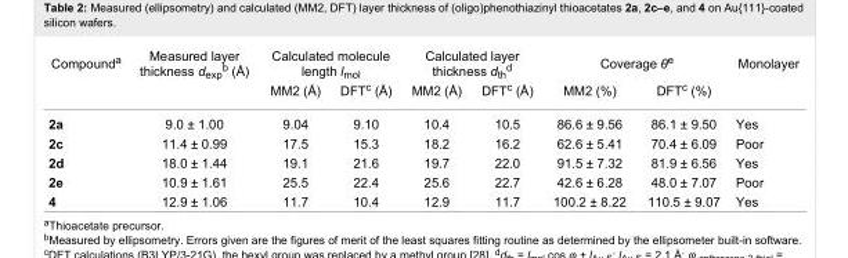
<table><tbody><tr><td rowspan="2">Compound<sup>a</sup></td><td>Measured layer thickness d<sub>exp</sub><sup>b</sup> (Å)</td><td colspan="2">Calculated molecule length l<sub>mol</sub></td><td colspan="2">Calculated layer thickness d<sub>th</sub><sup>d</sup></td><td colspan="2">Coverage θ<sup>e</sup></td><td>Monolayer</td></tr><tr><td></td><td>MM2 (Å)</td><td>DFT<sup>c</sup> (Å)</td><td>MM2 (Å)</td><td>DFT<sup>c</sup> (Å)</td><td>MM2 (%)</td><td>DFT<sup>c</sup> (%)</td><td></td></tr><tr><td>2a</td><td>9.0 ± 1.00</td><td>9.04</td><td>9.10</td><td>10.4</td><td>10.5</td><td>86.6 ± 9.56</td><td>86.1 ± 9.50</td><td>Yes</td></tr><tr><td>2c</td><td>11.4 ± 0.99</td><td>17.5</td><td>15.3</td><td>18.2</td><td>16.2</td><td>62.6 ± 5.41</td><td>70.4 ± 6.09</td><td>Poor</td></tr><tr><td>2d</td><td>18.0 ± 1.44</td><td>19.1</td><td>21.6</td><td>19.7</td><td>22.0</td><td>91.5 ± 7.32</td><td>81.9 ± 6.56</td><td>Yes</td></tr><tr><td>2e</td><td>10.9 ± 1.61</td><td>25.5</td><td>22.4</td><td>25.6</td><td>22.7</td><td>42.6 ± 6.28</td><td>48.0 ± 7.07</td><td>Poor</td></tr><tr><td>4</td><td>12.9 ± 1.06</td><td>11.7</td><td>10.4</td><td>12.9</td><td>11.7</td><td>100.2 ± 8.22</td><td>110.5 ± 9.07</td><td>Yes</td></tr></tbody></table>